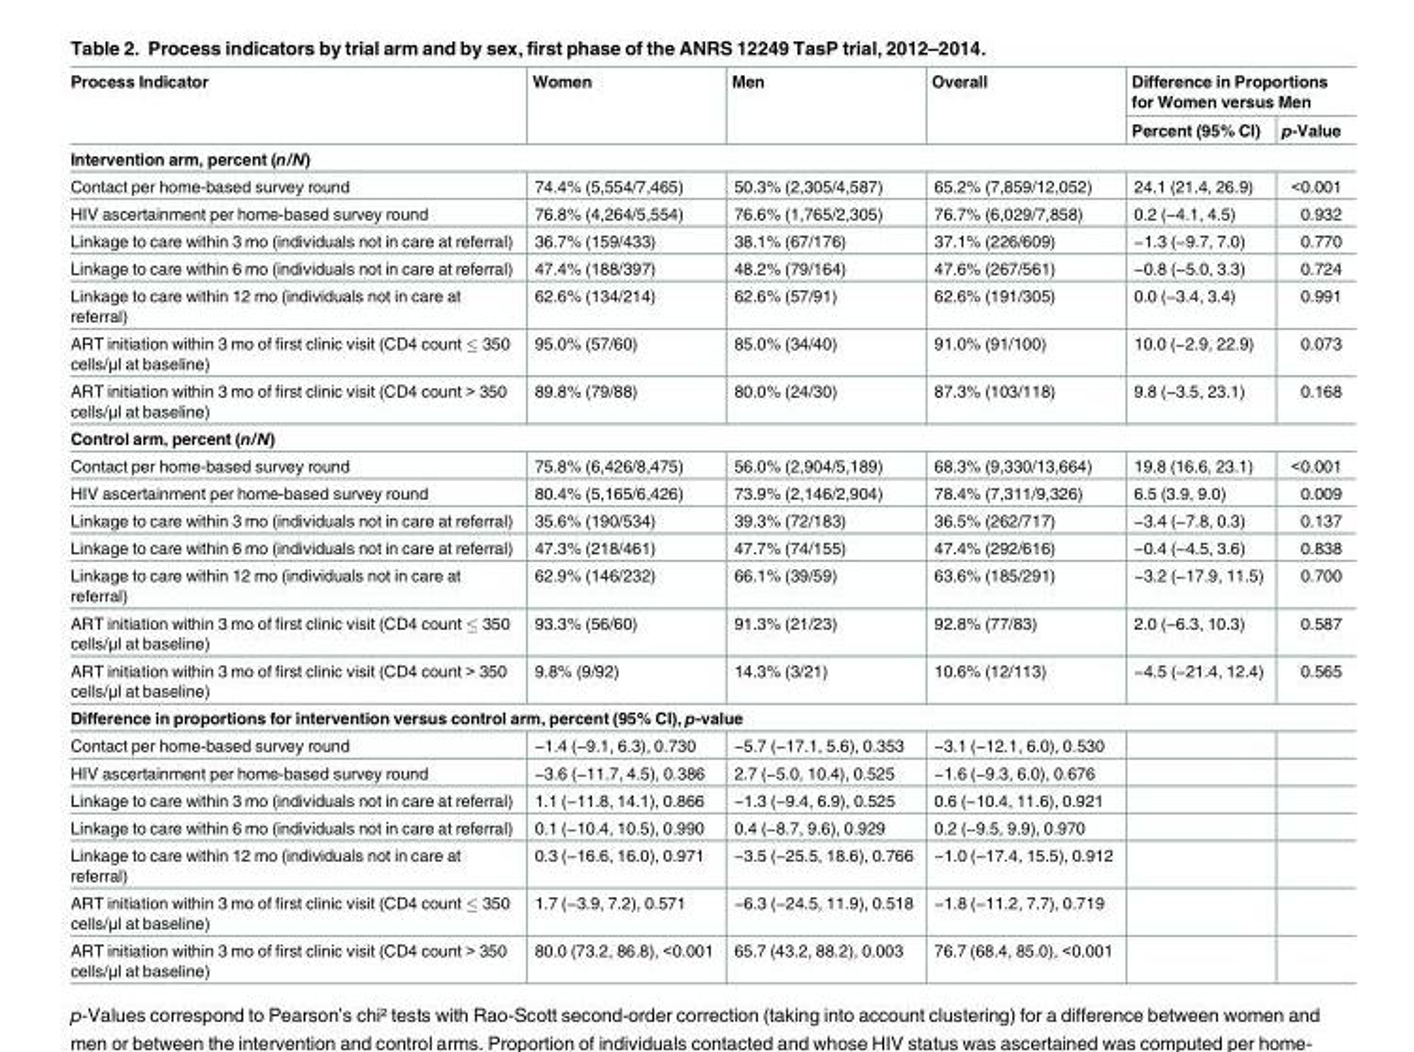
<table><thead><tr><td rowspan="2">Process Indicator</td><td rowspan="2">Women</td><td rowspan="2">Men</td><td rowspan="2">Overall</td><td colspan="2">Difference in Proportions for Women versus Men</td></tr><tr><td>Percent (95% CI)</td><td>p-Value</td></tr></thead><tbody><tr><td colspan="6">Intervention arm, percent (n/N)</td></tr><tr><td>Contact per home-based survey round</td><td>74.4% (5,554/7,465)</td><td>50.3% (2,305/4,587)</td><td>65.2% (7,859/12,052)</td><td>24.1 (21.4, 26.9)</td><td>&lt;0.001</td></tr><tr><td>HIV ascertainment per home-based survey round</td><td>76.8% (4,264/5,554)</td><td>76.6% (1,765/2,305)</td><td>76.7% (6,029/7,858)</td><td>0.2 (−4.1, 4.5)</td><td>0.932</td></tr><tr><td>Linkage to care within 3 mo (individuals not in care at referral)</td><td>36.7% (159/433)</td><td>38.1% (67/176)</td><td>37.1% (226/609)</td><td>−1.3 (−9.7, 7.0)</td><td>0.770</td></tr><tr><td>Linkage to care within 6 mo (individuals not in care at referral)</td><td>47.4% (188/397)</td><td>48.2% (79/164)</td><td>47.6% (267/561)</td><td>−0.8 (−5.0, 3.3)</td><td>0.724</td></tr><tr><td>Linkage to care within 12 mo (individuals not in care at referral)</td><td>62.6% (134/214)</td><td>62.6% (57/91)</td><td>62.6% (191/305)</td><td>0.0 (−3.4, 3.4)</td><td>0.991</td></tr><tr><td>ART initiation within 3 mo of first clinic visit (CD4 count ≤ 350 cells/μl at baseline)</td><td>95.0% (57/60)</td><td>85.0% (34/40)</td><td>91.0% (91/100)</td><td>10.0 (−2.9, 22.9)</td><td>0.073</td></tr><tr><td>ART initiation within 3 mo of first clinic visit (CD4 count &gt; 350 cells/μl at baseline)</td><td>89.8% (79/88)</td><td>80.0% (24/30)</td><td>87.3% (103/118)</td><td>9.8 (−3.5, 23.1)</td><td>0.168</td></tr><tr><td colspan="6">Control arm, percent (n/N)</td></tr><tr><td>Contact per home-based survey round</td><td>75.8% (6,426/8,475)</td><td>56.0% (2,904/5,189)</td><td>68.3% (9,330/13,664)</td><td>19.8 (16.6, 23.1)</td><td>&lt;0.001</td></tr><tr><td>HIV ascertainment per home-based survey round</td><td>80.4% (5,165/6,426)</td><td>73.9% (2,146/2,904)</td><td>78.4% (7,311/9,326)</td><td>6.5 (3.9, 9.0)</td><td>0.009</td></tr><tr><td>Linkage to care within 3 mo (individuals not in care at referral)</td><td>35.6% (190/534)</td><td>39.3% (72/183)</td><td>36.5% (262/717)</td><td>−3.4 (−7.8, 0.3)</td><td>0.137</td></tr><tr><td>Linkage to care within 6 mo (individuals not in care at referral)</td><td>47.3% (218/461)</td><td>47.7% (74/155)</td><td>47.4% (292/616)</td><td>−0.4 (−4.5, 3.6)</td><td>0.838</td></tr><tr><td>Linkage to care within 12 mo (individuals not in care at referral)</td><td>62.9% (146/232)</td><td>66.1% (39/59)</td><td>63.6% (185/291)</td><td>−3.2 (−17.9, 11.5)</td><td>0.700</td></tr><tr><td>ART initiation within 3 mo of first clinic visit (CD4 count ≤ 350 cells/μl at baseline)</td><td>93.3% (56/60)</td><td>91.3% (21/23)</td><td>92.8% (77/83)</td><td>2.0 (−6.3, 10.3)</td><td>0.587</td></tr><tr><td>ART initiation within 3 mo of first clinic visit (CD4 count &gt; 350 cells/μl at baseline)</td><td>9.8% (9/92)</td><td>14.3% (3/21)</td><td>10.6% (12/113)</td><td>−4.5 (−21.4, 12.4)</td><td>0.565</td></tr><tr><td colspan="6">Difference in proportions for intervention versus control arm, percent (95% CI), p-value</td></tr><tr><td>Contact per home-based survey round</td><td>−1.4 (−9.1, 6.3), 0.730</td><td>−5.7 (−17.1, 5.6), 0.353</td><td>−3.1 (−12.1, 6.0), 0.530</td><td></td><td></td></tr><tr><td>HIV ascertainment per home-based survey round</td><td>−3.6 (−11.7, 4.5), 0.386</td><td>2.7 (−5.0, 10.4), 0.525</td><td>−1.6 (−9.3, 6.0), 0.676</td><td></td><td></td></tr><tr><td>Linkage to care within 3 mo (individuals not in care at referral)</td><td>1.1 (−11.8, 14.1), 0.866</td><td>−1.3 (−9.4, 6.9), 0.525</td><td>0.6 (−10.4, 11.6), 0.921</td><td></td><td></td></tr><tr><td>Linkage to care within 6 mo (individuals not in care at referral)</td><td>0.1 (−10.4, 10.5), 0.990</td><td>0.4 (−8.7, 9.6), 0.929</td><td>0.2 (−9.5, 9.9), 0.970</td><td></td><td></td></tr><tr><td>Linkage to care within 12 mo (individuals not in care at referral)</td><td>0.3 (−16.6, 16.0), 0.971</td><td>−3.5 (−25.5, 18.6), 0.766</td><td>−1.0 (−17.4, 15.5), 0.912</td><td></td><td></td></tr><tr><td>ART initiation within 3 mo of first clinic visit (CD4 count ≤ 350 cells/μl at baseline)</td><td>1.7 (−3.9, 7.2), 0.571</td><td>−6.3 (−24.5, 11.9), 0.518</td><td>−1.8 (−11.2, 7.7), 0.719</td><td></td><td></td></tr><tr><td>ART initiation within 3 mo of first clinic visit (CD4 count &gt; 350 cells/μl at baseline)</td><td>80.0 (73.2, 86.8), &lt;0.001</td><td>65.7 (43.2, 88.2), 0.003</td><td>76.7 (68.4, 85.0), &lt;0.001</td><td></td><td></td></tr></tbody></table>